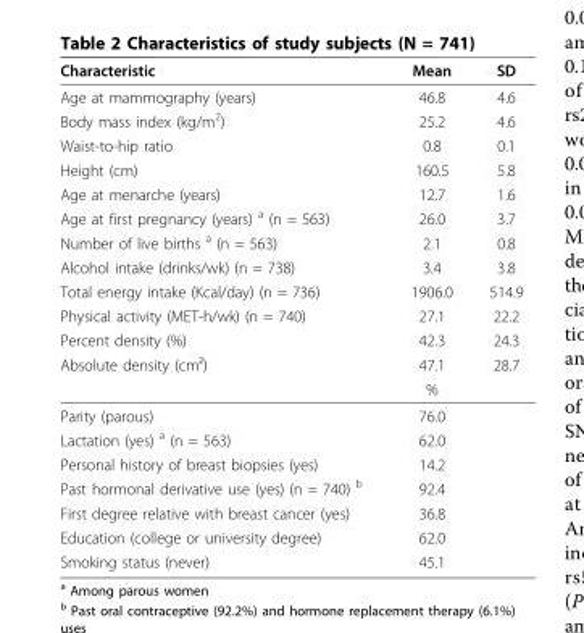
<table><thead><tr><td>Characteristic</td><td>Mean</td><td>SD</td></tr></thead><tbody><tr><td>Age at mammography (years)</td><td>46.8</td><td>4.6</td></tr><tr><td>Body mass index (kg/m<sup>2</sup>)</td><td>25.2</td><td>4.6</td></tr><tr><td>Waist-to-hip ratio</td><td>0.8</td><td>0.1</td></tr><tr><td>Height (cm)</td><td>160.5</td><td>5.8</td></tr><tr><td>Age at menarche (years)</td><td>12.7</td><td>1.6</td></tr><tr><td>Age at first pregnancy (years) <sup>a</sup> (n = 563)</td><td>26.0</td><td>3.7</td></tr><tr><td>Number of live births <sup>a</sup> (n = 563)</td><td>2.1</td><td>0.8</td></tr><tr><td>Alcohol intake (drinks/wk) (n = 738)</td><td>3.4</td><td>3.8</td></tr><tr><td>Total energy intake (Kcal/day) (n = 736)</td><td>1906.0</td><td>514.9</td></tr><tr><td>Physical activity (MET-h/wk) (n = 740)</td><td>27.1</td><td>22.2</td></tr><tr><td>Percent density (%)</td><td>42.3</td><td>24.3</td></tr><tr><td rowspan="2">Absolute density (cm²)</td><td>47.1</td><td>28.7</td></tr><tr><td>%</td><td></td></tr><tr><td>Parity (parous)</td><td>76.0</td><td></td></tr><tr><td>Lactation (yes) <sup>a</sup> (n = 563)</td><td>62.0</td><td></td></tr><tr><td>Personal history of breast biopsies (yes)</td><td>14.2</td><td></td></tr><tr><td>Past hormonal derivative use (yes) (n = 740) <sup>b</sup></td><td>92.4</td><td></td></tr><tr><td>First degree relative with breast cancer (yes)</td><td>36.8</td><td></td></tr><tr><td>Education (college or university degree)</td><td>62.0</td><td></td></tr><tr><td>Smoking status (never)</td><td>45.1</td><td></td></tr></tbody></table>